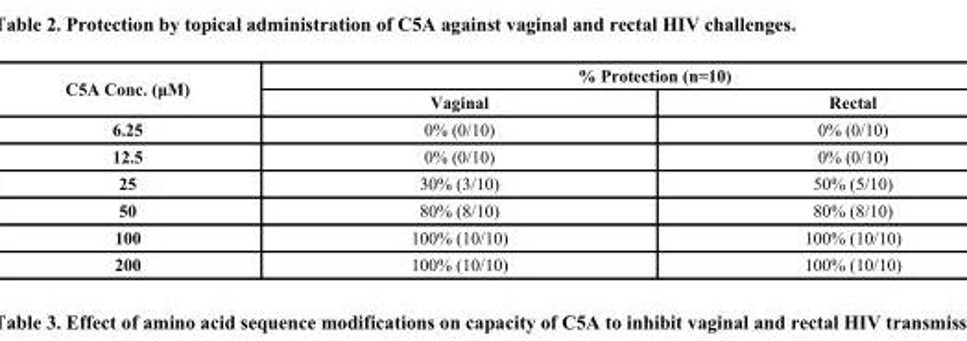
<table><thead><tr><td rowspan="2">C5A Conc. (μM)</td><td colspan="2">% Protection (n=10)</td></tr><tr><td>Vaginal</td><td>Rectal</td></tr></thead><tbody><tr><td>6.25</td><td>0% (0/10)</td><td>0% (0/10)</td></tr><tr><td>12.5</td><td>0% (0/10)</td><td>0% (0/10)</td></tr><tr><td>25</td><td>30% (3/10)</td><td>50% (5/10)</td></tr><tr><td>50</td><td>80% (8/10)</td><td>80% (8/10)</td></tr><tr><td>100</td><td>100% (10/10)</td><td>100% (10/10)</td></tr><tr><td>200</td><td>100% (10/10)</td><td>100% (10/10)</td></tr></tbody></table>